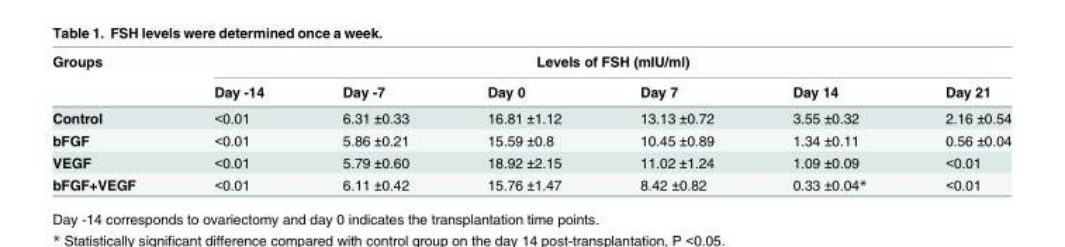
<table><thead><tr><td rowspan="2">Groups</td><td colspan="6">Levels of FSH (mIU/ml)</td></tr><tr><td>Day -14</td><td>Day -7</td><td>Day 0</td><td>Day 7</td><td>Day 14</td><td>Day 21</td></tr></thead><tbody><tr><td>Control</td><td>&lt;0.01</td><td>6.31 ±0.33</td><td>16.81 ±1.12</td><td>13.13 ±0.72</td><td>3.55 ±0.32</td><td>2.16 ±0.54</td></tr><tr><td>bFGF</td><td>&lt;0.01</td><td>5.86 ±0.21</td><td>15.59 ±0.8</td><td>10.45 ±0.89</td><td>1.34 ±0.11</td><td>0.56 ±0.04</td></tr><tr><td>VEGF</td><td>&lt;0.01</td><td>5.79 ±0.60</td><td>18.92 ±2.15</td><td>11.02 ±1.24</td><td>1.09 ±0.09</td><td>&lt;0.01</td></tr><tr><td>bFGF+VEGF</td><td>&lt;0.01</td><td>6.11 ±0.42</td><td>15.76 ±1.47</td><td>8.42 ±0.82</td><td>0.33 ±0.04*</td><td>&lt;0.01</td></tr></tbody></table>